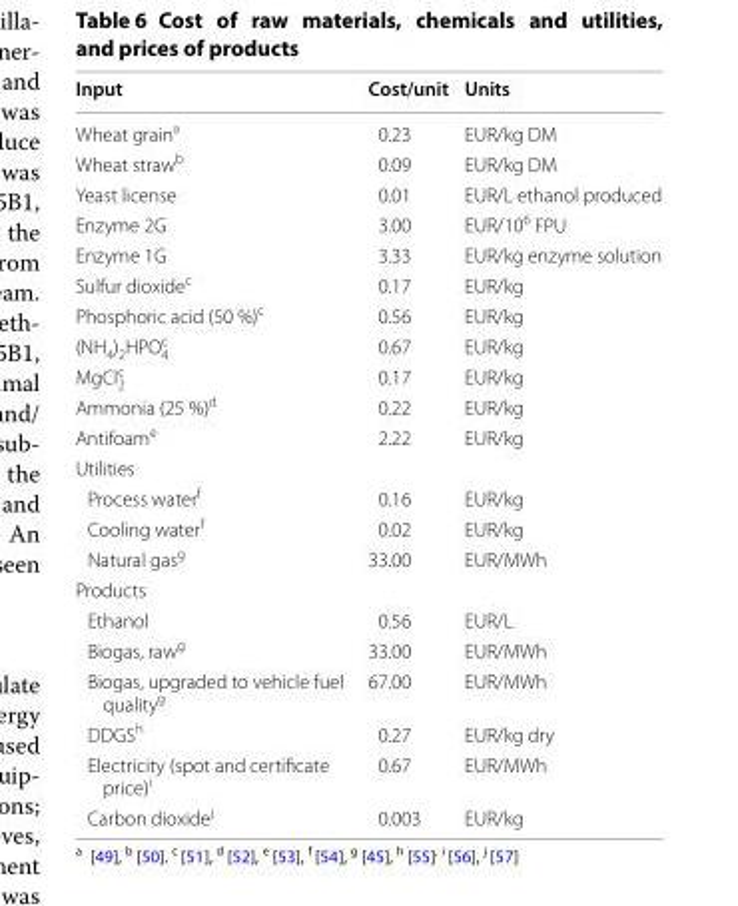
<table><thead><tr><td>Input</td><td>Cost/unit</td><td>Units</td></tr></thead><tbody><tr><td>Wheat grain<sup>a</sup></td><td>0.23</td><td>EUR/kg DM</td></tr><tr><td>Wheat straw<sup>b</sup></td><td>0.09</td><td>EUR/kg DM</td></tr><tr><td>Yeast license</td><td>0.01</td><td>EUR/L ethanol produced</td></tr><tr><td>Enzyme 2G</td><td>3.00</td><td>EUR/10<sup>6</sup> FPU</td></tr><tr><td>Enzyme 1G</td><td>3.33</td><td>EUR/kg enzyme solution</td></tr><tr><td>Sulfur dioxide<sup>c</sup></td><td>0.17</td><td>EUR/kg</td></tr><tr><td>Phosphoric acid (50 %)<sup>c</sup></td><td>0.56</td><td>EUR/kg</td></tr><tr><td>(NH<sub>4</sub>)<sub>2</sub>HPO<sub>4</sub> <sup>c</sup></td><td>0.67</td><td>EUR/kg</td></tr><tr><td>MgCl<sub>2</sub> <sup>c</sup></td><td>0.17</td><td>EUR/kg</td></tr><tr><td>Ammonia (25 %)<sup>d</sup></td><td>0.22</td><td>EUR/kg</td></tr><tr><td>Antifoam<sup>e</sup></td><td>2.22</td><td>EUR/kg</td></tr><tr><td colspan="3">Utilities</td></tr><tr><td>Process water<sup>f</sup></td><td>0.16</td><td>EUR/kg</td></tr><tr><td>Cooling water<sup>f</sup></td><td>0.02</td><td>EUR/kg</td></tr><tr><td>Natural gas<sup>g</sup></td><td>33.00</td><td>EUR/MWh</td></tr><tr><td colspan="3">Products</td></tr><tr><td>Ethanol</td><td>0.56</td><td>EUR/L</td></tr><tr><td>Biogas, raw<sup>g</sup></td><td>33.00</td><td>EUR/MWh</td></tr><tr><td>Biogas, upgraded to vehicle fuel quality<sup>g</sup></td><td>67.00</td><td>EUR/MWh</td></tr><tr><td>DDGS<sup>h</sup></td><td>0.27</td><td>EUR/kg dry</td></tr><tr><td>Electricity (spot and certificate price)<sup>i</sup></td><td>0.67</td><td>EUR/MWh</td></tr><tr><td>Carbon dioxide<sup>j</sup></td><td>0.003</td><td>EUR/kg</td></tr></tbody></table>